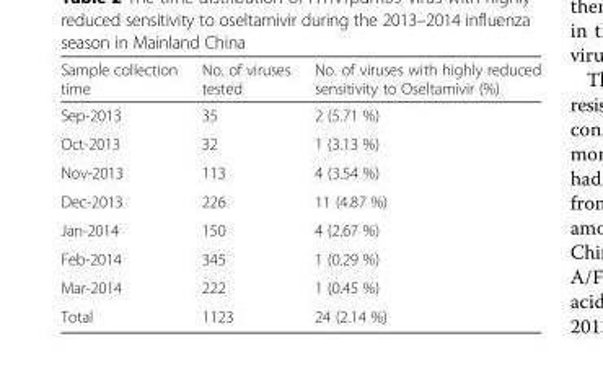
<table><thead><tr><td>Sample collection time</td><td>No. of viruses tested</td><td>No. of viruses with highly reduced sensitivity to Oseltamivir (%)</td></tr></thead><tbody><tr><td>Sep-2013</td><td>35</td><td>2 (5.71 %)</td></tr><tr><td>Oct-2013</td><td>32</td><td>1 (3.13 %)</td></tr><tr><td>Nov-2013</td><td>113</td><td>4 (3.54 %)</td></tr><tr><td>Dec-2013</td><td>226</td><td>11 (4.87 %)</td></tr><tr><td>Jan-2014</td><td>150</td><td>4 (2.67 %)</td></tr><tr><td>Feb-2014</td><td>345</td><td>1 (0.29 %)</td></tr><tr><td>Mar-2014</td><td>222</td><td>1 (0.45 %)</td></tr><tr><td>Total</td><td>1123</td><td>24 (2.14 %)</td></tr></tbody></table>